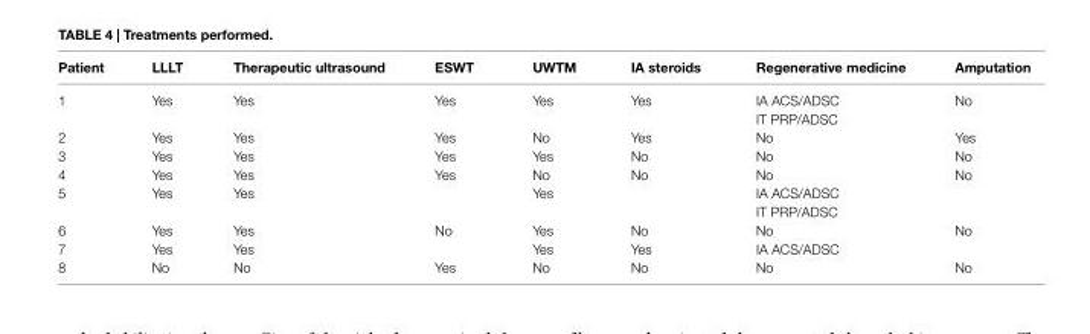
<table><thead><tr><td>Patient</td><td>lllT</td><td>Therapeutic ultrasound</td><td>esWT</td><td>UWTM</td><td>ia steroids</td><td>regenerative medicine</td><td>amputation</td></tr></thead><tbody><tr><td rowspan="2">1</td><td rowspan="2">Yes</td><td rowspan="2">Yes</td><td rowspan="2">Yes</td><td rowspan="2">Yes</td><td rowspan="2">Yes</td><td>IA ACS/ADSC</td><td rowspan="2">No</td></tr><tr><td>IT PRP/ADSC</td></tr><tr><td>2</td><td>Yes</td><td>Yes</td><td>Yes</td><td>No</td><td>Yes</td><td>No</td><td>Yes</td></tr><tr><td>3</td><td>Yes</td><td>Yes</td><td>Yes</td><td>Yes</td><td>No</td><td>No</td><td>No</td></tr><tr><td>4</td><td>Yes</td><td>Yes</td><td>Yes</td><td>No</td><td>No</td><td>No</td><td>No</td></tr><tr><td rowspan="2">5</td><td rowspan="2">Yes</td><td rowspan="2">Yes</td><td rowspan="2"></td><td rowspan="2">Yes</td><td rowspan="2"></td><td>IA ACS/ADSC</td><td rowspan="2"></td></tr><tr><td>IT PRP/ADSC</td></tr><tr><td>6</td><td>Yes</td><td>Yes</td><td>No</td><td>Yes</td><td>No</td><td>No</td><td>No</td></tr><tr><td>7</td><td>Yes</td><td>Yes</td><td></td><td>Yes</td><td>Yes</td><td>IA ACS/ADSC</td><td></td></tr><tr><td>8</td><td>No</td><td>No</td><td>Yes</td><td>No</td><td>No</td><td>No</td><td>No</td></tr></tbody></table>